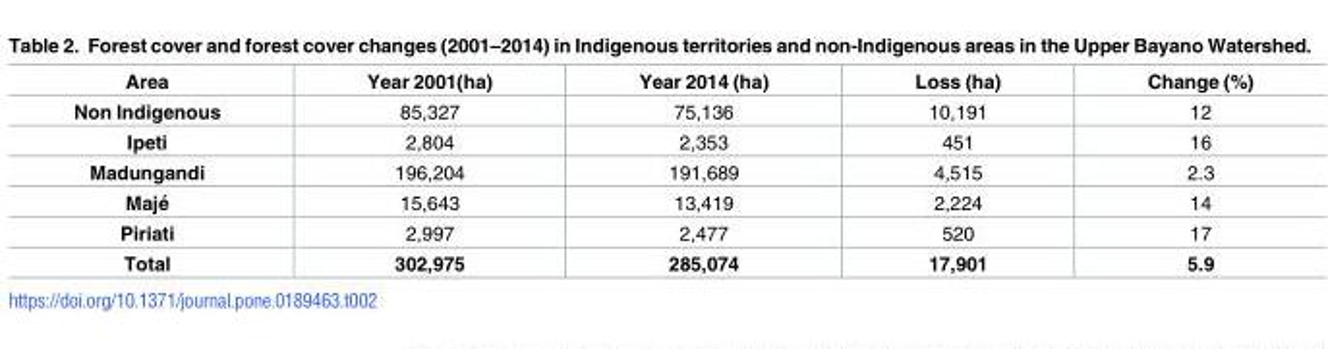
<table><thead><tr><td>Area</td><td>Year 2001(ha)</td><td>Year 2014 (ha)</td><td>Loss (ha)</td><td>Change (%)</td></tr></thead><tbody><tr><td>Non Indigenous</td><td>85,327</td><td>75,136</td><td>10,191</td><td>12</td></tr><tr><td>Ipeti</td><td>2,804</td><td>2,353</td><td>451</td><td>16</td></tr><tr><td>Madungandi</td><td>196,204</td><td>191,689</td><td>4,515</td><td>2.3</td></tr><tr><td>Maje´</td><td>15,643</td><td>13,419</td><td>2,224</td><td>14</td></tr><tr><td>Piriati</td><td>2,997</td><td>2,477</td><td>520</td><td>17</td></tr><tr><td>Total</td><td>302,975</td><td>285,074</td><td>17,901</td><td>5.9</td></tr></tbody></table>